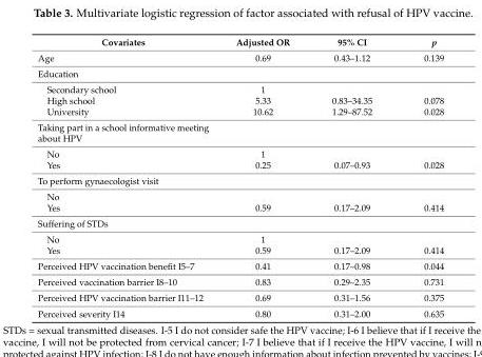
<table><thead><tr><td>Covariates</td><td>Adjusted OR</td><td>95% CI</td><td>p</td></tr></thead><tbody><tr><td>Age</td><td>0.69</td><td>0.43–1.12</td><td>0.139</td></tr><tr><td colspan="4">Education</td></tr><tr><td>Secondary school</td><td>1</td><td></td><td></td></tr><tr><td>High school</td><td>5.33</td><td>0.83–34.35</td><td>0.078</td></tr><tr><td>University</td><td>10.62</td><td>1.29–87.52</td><td>0.028</td></tr><tr><td colspan="4">Taking part in a school informative meeting about HPV</td></tr><tr><td>No</td><td>1</td><td></td><td></td></tr><tr><td>Yes</td><td>0.25</td><td>0.07–0.93</td><td>0.028</td></tr><tr><td colspan="4">To perform gynaecologist visit</td></tr><tr><td colspan="4">No</td></tr><tr><td>Yes</td><td>0.59</td><td>0.17–2.09</td><td>0.414</td></tr><tr><td colspan="4">Suffering of STDs</td></tr><tr><td>No</td><td>1</td><td></td><td></td></tr><tr><td>Yes</td><td>0.59</td><td>0.17–2.09</td><td>0.414</td></tr><tr><td>Perceived HPV vaccination benefit I5–7</td><td>0.41</td><td>0.17–0.98</td><td>0.044</td></tr><tr><td>Perceived vaccination barrier I8–10</td><td>0.83</td><td>0.29–2.35</td><td>0.731</td></tr><tr><td>Perceived HPV vaccination barrier I11–12</td><td>0.69</td><td>0.31–1.56</td><td>0.375</td></tr><tr><td>Perceived severity I14</td><td>0.80</td><td>0.31–2.00</td><td>0.635</td></tr></tbody></table>